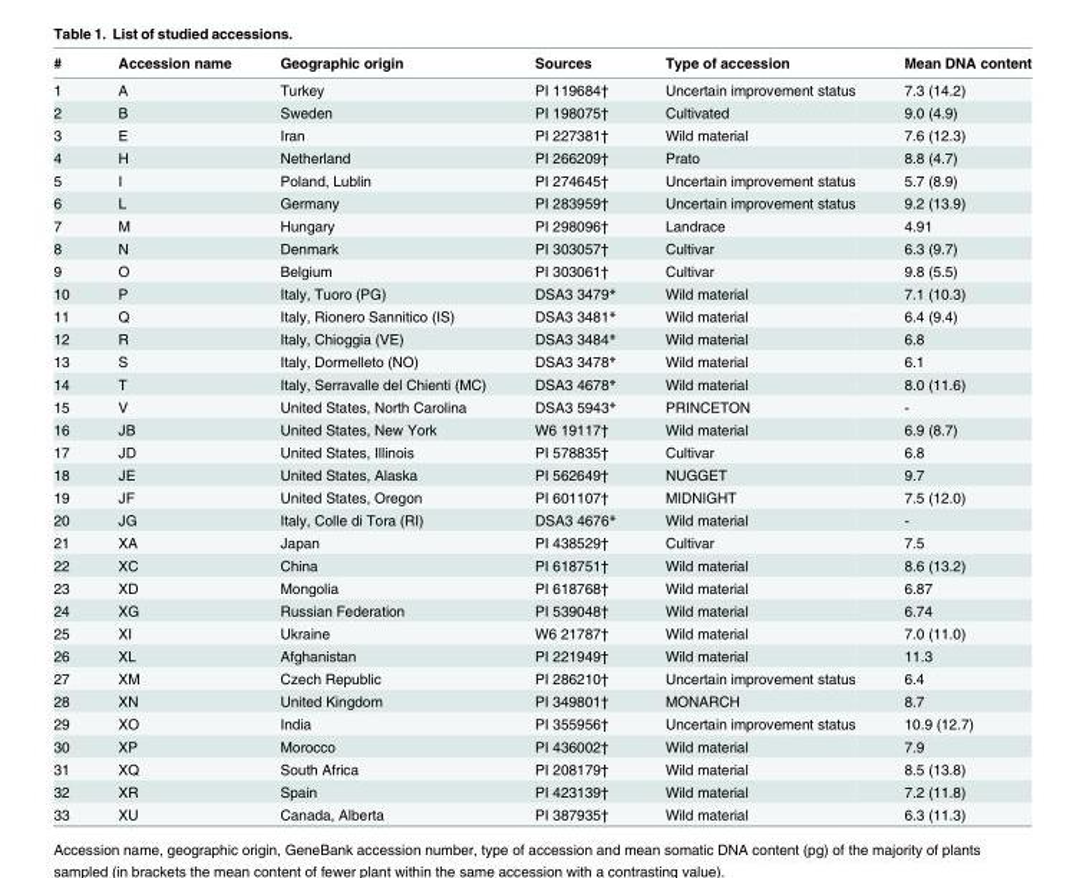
<table><thead><tr><td>#</td><td>Accession name</td><td>Geographic origin</td><td>Sources</td><td>Type of accession</td><td>Mean DNA content</td></tr></thead><tbody><tr><td>1</td><td>A</td><td>Turkey</td><td>PI 119684†</td><td>Uncertain improvement status</td><td>7.3 (14.2)</td></tr><tr><td>2</td><td>B</td><td>Sweden</td><td>PI 198075†</td><td>Cultivated</td><td>9.0 (4.9)</td></tr><tr><td>3</td><td>E</td><td>Iran</td><td>PI 227381†</td><td>Wild material</td><td>7.6 (12.3)</td></tr><tr><td>4</td><td>H</td><td>Netherland</td><td>PI 266209†</td><td>Prato</td><td>8.8 (4.7)</td></tr><tr><td>5</td><td>I</td><td>Poland, Lublin</td><td>PI 274645†</td><td>Uncertain improvement status</td><td>5.7 (8.9)</td></tr><tr><td>6</td><td>L</td><td>Germany</td><td>PI 283959†</td><td>Uncertain improvement status</td><td>9.2 (13.9)</td></tr><tr><td>7</td><td>M</td><td>Hungary</td><td>PI 298096†</td><td>Landrace</td><td>4.91</td></tr><tr><td>8</td><td>N</td><td>Denmark</td><td>PI 303057†</td><td>Cultivar</td><td>6.3 (9.7)</td></tr><tr><td>9</td><td>O</td><td>Belgium</td><td>PI 303061†</td><td>Cultivar</td><td>9.8 (5.5)</td></tr><tr><td>10</td><td>P</td><td>Italy, Tuoro (PG)</td><td>DSA3 3479*</td><td>Wild material</td><td>7.1 (10.3)</td></tr><tr><td>11</td><td>Q</td><td>Italy, Rionero Sannitico (IS)</td><td>DSA3 3481*</td><td>Wild material</td><td>6.4 (9.4)</td></tr><tr><td>12</td><td>R</td><td>Italy, Chioggia (VE)</td><td>DSA3 3484*</td><td>Wild material</td><td>6.8</td></tr><tr><td>13</td><td>S</td><td>Italy, Dormelleto (NO)</td><td>DSA3 3478*</td><td>Wild material</td><td>6.1</td></tr><tr><td>14</td><td>T</td><td>Italy, Serravalle del Chienti (MC)</td><td>DSA3 4678*</td><td>Wild material</td><td>8.0 (11.6)</td></tr><tr><td>15</td><td>V</td><td>United States, North Carolina</td><td>DSA3 5943*</td><td>PRINCETON</td><td>-</td></tr><tr><td>16</td><td>JB</td><td>United States, New York</td><td>W6 19117†</td><td>Wild material</td><td>6.9 (8.7)</td></tr><tr><td>17</td><td>JD</td><td>United States, Illinois</td><td>PI 578835†</td><td>Cultivar</td><td>6.8</td></tr><tr><td>18</td><td>JE</td><td>United States, Alaska</td><td>PI 562649†</td><td>NUGGET</td><td>9.7</td></tr><tr><td>19</td><td>JF</td><td>United States, Oregon</td><td>PI 601107†</td><td>MIDNIGHT</td><td>7.5 (12.0)</td></tr><tr><td>20</td><td>JG</td><td>Italy, Colle di Tora (RI)</td><td>DSA3 4676*</td><td>Wild material</td><td>-</td></tr><tr><td>21</td><td>XA</td><td>Japan</td><td>PI 438529†</td><td>Cultivar</td><td>7.5</td></tr><tr><td>22</td><td>XC</td><td>China</td><td>PI 618751†</td><td>Wild material</td><td>8.6 (13.2)</td></tr><tr><td>23</td><td>XD</td><td>Mongolia</td><td>PI 618768†</td><td>Wild material</td><td>6.87</td></tr><tr><td>24</td><td>XG</td><td>Russian Federation</td><td>PI 539048†</td><td>Wild material</td><td>6.74</td></tr><tr><td>25</td><td>XI</td><td>Ukraine</td><td>W6 21787†</td><td>Wild material</td><td>7.0 (11.0)</td></tr><tr><td>26</td><td>XL</td><td>Afghanistan</td><td>PI 221949†</td><td>Wild material</td><td>11.3</td></tr><tr><td>27</td><td>XM</td><td>Czech Republic</td><td>PI 286210†</td><td>Uncertain improvement status</td><td>6.4</td></tr><tr><td>28</td><td>XN</td><td>United Kingdom</td><td>PI 349801†</td><td>MONARCH</td><td>8.7</td></tr><tr><td>29</td><td>XO</td><td>India</td><td>PI 355956†</td><td>Uncertain improvement status</td><td>10.9 (12.7)</td></tr><tr><td>30</td><td>XP</td><td>Morocco</td><td>PI 436002†</td><td>Wild material</td><td>7.9</td></tr><tr><td>31</td><td>XQ</td><td>South Africa</td><td>PI 208179†</td><td>Wild material</td><td>8.5 (13.8)</td></tr><tr><td>32</td><td>XR</td><td>Spain</td><td>PI 423139†</td><td>Wild material</td><td>7.2 (11.8)</td></tr><tr><td>33</td><td>XU</td><td>Canada, Alberta</td><td>PI 387935†</td><td>Wild material</td><td>6.3 (11.3)</td></tr></tbody></table>